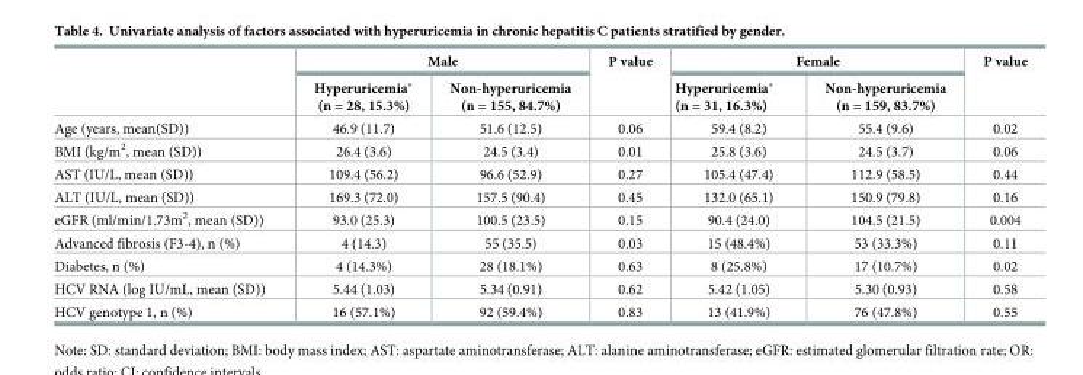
<table><thead><tr><td rowspan="2"></td><td colspan="2">Male</td><td rowspan="2">P value</td><td colspan="2">Female</td><td rowspan="2">P value</td></tr><tr><td>Hyperuricemia* (n = 28, 15.3%)</td><td>Non-hyperuricemia (n = 155, 84.7%)</td><td>Hyperuricemia* (n = 31, 16.3%)</td><td>Non-hyperuricemia (n = 159, 83.7%)</td></tr></thead><tbody><tr><td>Age (years, mean(SD))</td><td>46.9 (11.7)</td><td>51.6 (12.5)</td><td>0.06</td><td>59.4 (8.2)</td><td>55.4 (9.6)</td><td>0.02</td></tr><tr><td>BMI (kg/m<sup>2</sup>, mean (SD))</td><td>26.4 (3.6)</td><td>24.5 (3.4)</td><td>0.01</td><td>25.8 (3.6)</td><td>24.5 (3.7)</td><td>0.06</td></tr><tr><td>AST (IU/L, mean (SD))</td><td>109.4 (56.2)</td><td>96.6 (52.9)</td><td>0.27</td><td>105.4 (47.4)</td><td>112.9 (58.5)</td><td>0.44</td></tr><tr><td>ALT (IU/L, mean (SD))</td><td>169.3 (72.0)</td><td>157.5 (90.4)</td><td>0.45</td><td>132.0 (65.1)</td><td>150.9 (79.8)</td><td>0.16</td></tr><tr><td>eGFR (ml/min/1.73m<sup>2</sup>, mean (SD))</td><td>93.0 (25.3)</td><td>100.5 (23.5)</td><td>0.15</td><td>90.4 (24.0)</td><td>104.5 (21.5)</td><td>0.004</td></tr><tr><td>Advanced fibrosis (F3-4), n (%)</td><td>4 (14.3)</td><td>55 (35.5)</td><td>0.03</td><td>15 (48.4%)</td><td>53 (33.3%)</td><td>0.11</td></tr><tr><td>Diabetes, n (%)</td><td>4 (14.3%)</td><td>28 (18.1%)</td><td>0.63</td><td>8 (25.8%)</td><td>17 (10.7%)</td><td>0.02</td></tr><tr><td>HCV RNA (log IU/mL, mean (SD))</td><td>5.44 (1.03)</td><td>5.34 (0.91)</td><td>0.62</td><td>5.42 (1.05)</td><td>5.30 (0.93)</td><td>0.58</td></tr><tr><td>HCV genotype 1, n (%)</td><td>16 (57.1%)</td><td>92 (59.4%)</td><td>0.83</td><td>13 (41.9%)</td><td>76 (47.8%)</td><td>0.55</td></tr></tbody></table>